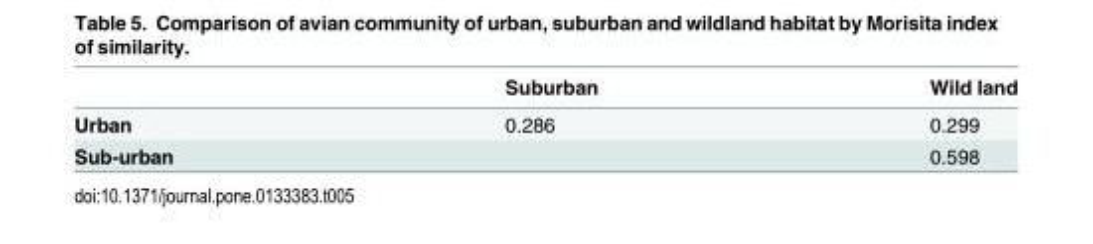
<table><thead><tr><td></td><td>Suburban</td><td>Wild land</td></tr></thead><tbody><tr><td>Urban</td><td>0.286</td><td>0.299</td></tr><tr><td>Sub-urban</td><td></td><td>0.598</td></tr></tbody></table>